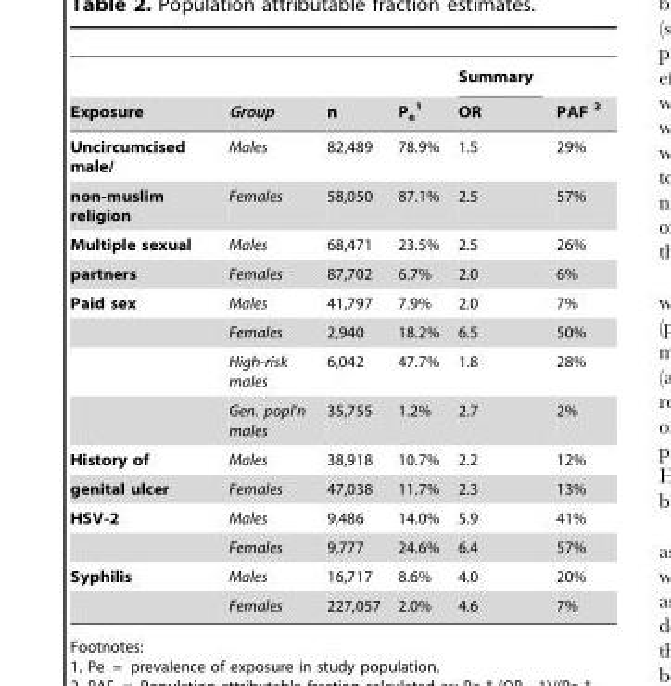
<table><thead><tr><td rowspan="2">Exposure</td><td rowspan="2">Group</td><td rowspan="2">n</td><td rowspan="2">P<sub>e</sub> <sup>1</sup></td><td rowspan="2">Summary OR</td><td rowspan="2">PAF <sup>2</sup></td></tr><tr></tr></thead><tbody><tr><td>Uncircumcised male/</td><td>Males</td><td>82,489</td><td>78.9%</td><td>1.5</td><td>29%</td></tr><tr><td>non-muslim religion</td><td>Females</td><td>58,050</td><td>87.1%</td><td>2.5</td><td>57%</td></tr><tr><td>Multiple sexual</td><td>Males</td><td>68,471</td><td>23.5%</td><td>2.5</td><td>26%</td></tr><tr><td>partners</td><td>Females</td><td>87,702</td><td>6.7%</td><td>2.0</td><td>6%</td></tr><tr><td rowspan="4">Paid sex</td><td>Males</td><td>41,797</td><td>7.9%</td><td>2.0</td><td>7%</td></tr><tr><td>Females</td><td>2,940</td><td>18.2%</td><td>6.5</td><td>50%</td></tr><tr><td>High-risk males</td><td>6,042</td><td>47.7%</td><td>1.8</td><td>28%</td></tr><tr><td>Gen. popl’n males</td><td>35,755</td><td>1.2%</td><td>2.7</td><td>2%</td></tr><tr><td>History of</td><td>Males</td><td>38,918</td><td>10.7%</td><td>2.2</td><td>12%</td></tr><tr><td>genital ulcer</td><td>Females</td><td>47,038</td><td>11.7%</td><td>2.3</td><td>13%</td></tr><tr><td rowspan="2">HSV-2</td><td>Males</td><td>9,486</td><td>14.0%</td><td>5.9</td><td>41%</td></tr><tr><td>Females</td><td>9,777</td><td>24.6%</td><td>6.4</td><td>57%</td></tr><tr><td rowspan="2">Syphilis</td><td>Males</td><td>16,717</td><td>8.6%</td><td>4.0</td><td>20%</td></tr><tr><td>Females</td><td>227,057</td><td>2.0%</td><td>4.6</td><td>7%</td></tr></tbody></table>